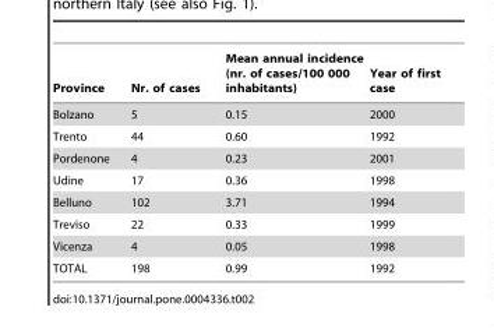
<table><thead><tr><td>Province</td><td>Nr. of cases</td><td>Mean annual incidence (nr. of cases/100 000 inhabitants)</td><td>Year of first case</td></tr></thead><tbody><tr><td>Bolzano</td><td>5</td><td>0.15</td><td>2000</td></tr><tr><td>Trento</td><td>44</td><td>0.60</td><td>1992</td></tr><tr><td>Pordenone</td><td>4</td><td>0.23</td><td>2001</td></tr><tr><td>Udine</td><td>17</td><td>0.36</td><td>1998</td></tr><tr><td>Belluno</td><td>102</td><td>3.71</td><td>1994</td></tr><tr><td>Treviso</td><td>22</td><td>0.33</td><td>1999</td></tr><tr><td>Vicenza</td><td>4</td><td>0.05</td><td>1998</td></tr><tr><td>TOTAL</td><td>198</td><td>0.99</td><td>1992</td></tr></tbody></table>